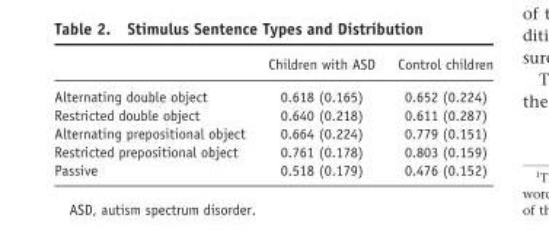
<table><thead><tr><td></td><td>Children with ASD</td><td>Control children</td></tr></thead><tbody><tr><td>Alternating double object</td><td>0.618 (0.165)</td><td>0.652 (0.224)</td></tr><tr><td>Restricted double object</td><td>0.640 (0.218)</td><td>0.611 (0.287)</td></tr><tr><td>Alternating prepositional object</td><td>0.664 (0.224)</td><td>0.779 (0.151)</td></tr><tr><td>Restricted prepositional object</td><td>0.761 (0.178)</td><td>0.803 (0.159)</td></tr><tr><td>Passive</td><td>0.518 (0.179)</td><td>0.476 (0.152)</td></tr></tbody></table>